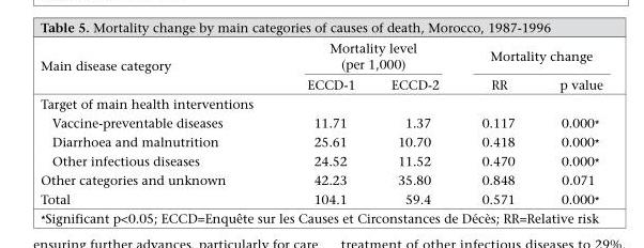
<table><thead><tr><td rowspan="2">Main disease category</td><td colspan="2">Mortality level (per 1,000)</td><td colspan="2">Mortality change</td></tr><tr><td>ECCD-1</td><td>ECCD-2</td><td>RR</td><td>p value</td></tr></thead><tbody><tr><td colspan="5">Target of main health interventions</td></tr><tr><td>Vaccine-preventable diseases</td><td>11.71</td><td>1.37</td><td>0.117</td><td>0.000*</td></tr><tr><td>Diarrhoea and malnutrition</td><td>25.61</td><td>10.70</td><td>0.418</td><td>0.000*</td></tr><tr><td>Other infectious diseases</td><td>24.52</td><td>11.52</td><td>0.470</td><td>0.000*</td></tr><tr><td>Other categories and unknown</td><td>42.23</td><td>35.80</td><td>0.848</td><td>0.071</td></tr><tr><td>Total</td><td>104.1</td><td>59.4</td><td>0.571</td><td>0.000*</td></tr></tbody></table>